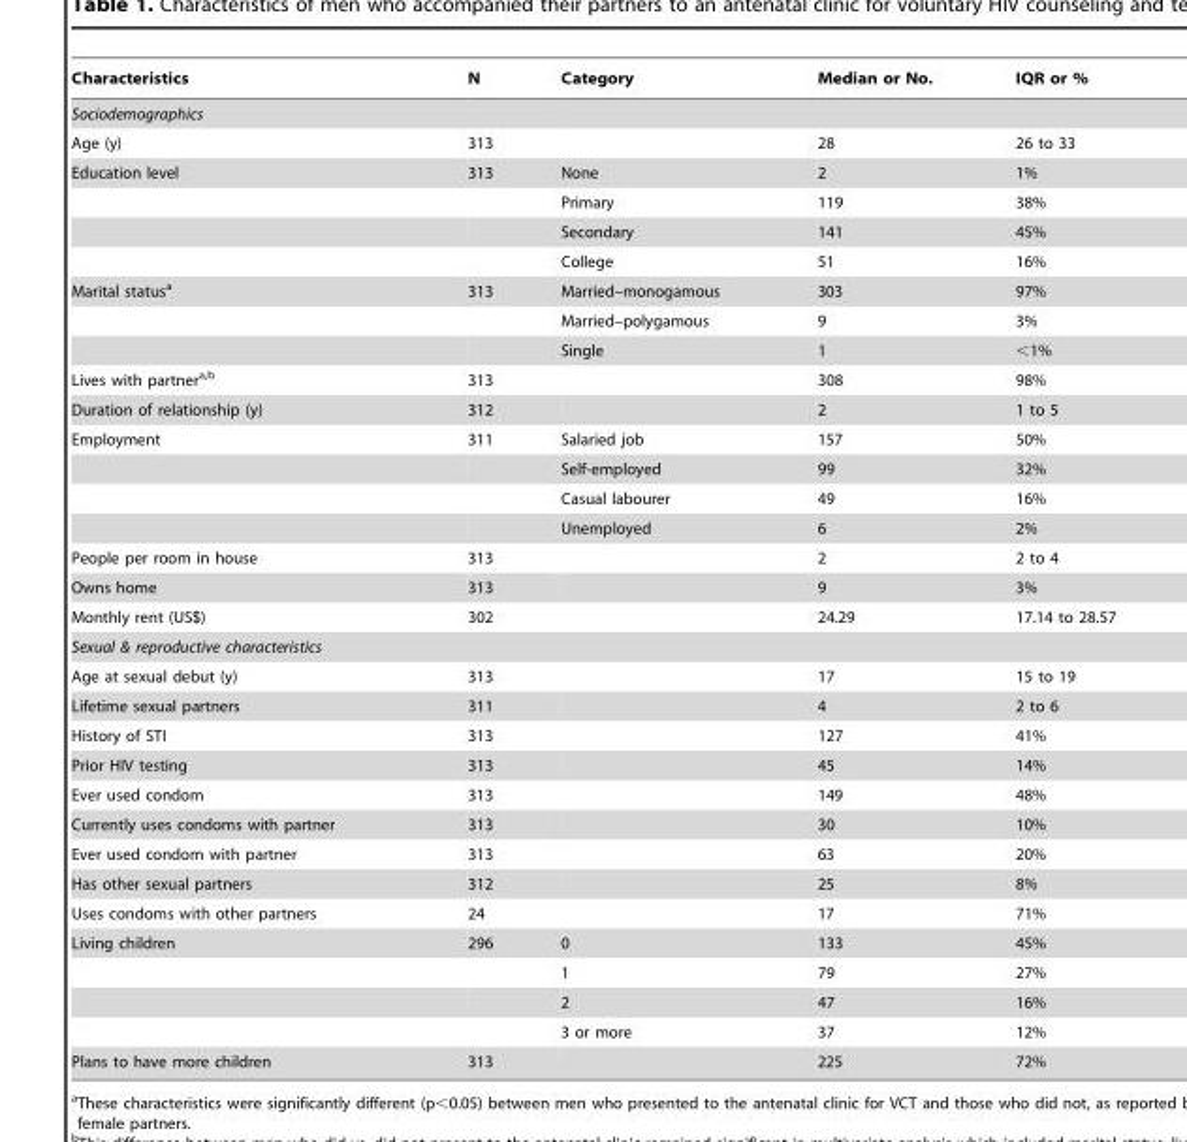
<table><thead><tr><td>Characteristics</td><td>N</td><td>Category</td><td>Median or No.</td><td>IQR or %</td></tr></thead><tbody><tr><td colspan="5">Sociodemographics</td></tr><tr><td>Age (y)</td><td>313</td><td></td><td>28</td><td>26 to 33</td></tr><tr><td rowspan="4">Education level</td><td>313</td><td>None</td><td>2</td><td>1%</td></tr><tr><td></td><td>Primary</td><td>119</td><td>38%</td></tr><tr><td></td><td>Secondary</td><td>141</td><td>45%</td></tr><tr><td></td><td>College</td><td>51</td><td>16%</td></tr><tr><td rowspan="3">Marital status<sup>a</sup></td><td>313</td><td>Married–monogamous</td><td>303</td><td>97%</td></tr><tr><td></td><td>Married–polygamous</td><td>9</td><td>3%</td></tr><tr><td></td><td>Single</td><td>1</td><td>&lt;1%</td></tr><tr><td>Lives with partnera,b</td><td>313</td><td></td><td>308</td><td>98%</td></tr><tr><td>Duration of relationship (y)</td><td>312</td><td></td><td>2</td><td>1 to 5</td></tr><tr><td rowspan="4">Employment</td><td>311</td><td>Salaried job</td><td>157</td><td>50%</td></tr><tr><td></td><td>Self-employed</td><td>99</td><td>32%</td></tr><tr><td></td><td>Casual labourer</td><td>49</td><td>16%</td></tr><tr><td></td><td>Unemployed</td><td>6</td><td>2%</td></tr><tr><td>People per room in house</td><td>313</td><td></td><td>2</td><td>2 to 4</td></tr><tr><td>Owns home</td><td>313</td><td></td><td>9</td><td>3%</td></tr><tr><td>Monthly rent (US$)</td><td>302</td><td></td><td>24.29</td><td>17.14 to 28.57</td></tr><tr><td colspan="5">Sexual &amp; reproductive characteristics</td></tr><tr><td>Age at sexual debut (y)</td><td>313</td><td></td><td>17</td><td>15 to 19</td></tr><tr><td>Lifetime sexual partners</td><td>311</td><td></td><td>4</td><td>2 to 6</td></tr><tr><td>History of STI</td><td>313</td><td></td><td>127</td><td>41%</td></tr><tr><td>Prior HIV testing</td><td>313</td><td></td><td>45</td><td>14%</td></tr><tr><td>Ever used condom</td><td>313</td><td></td><td>149</td><td>48%</td></tr><tr><td>Currently uses condoms with partner</td><td>313</td><td></td><td>30</td><td>10%</td></tr><tr><td>Ever used condom with partner</td><td>313</td><td></td><td>63</td><td>20%</td></tr><tr><td>Has other sexual partners</td><td>312</td><td></td><td>25</td><td>8%</td></tr><tr><td>Uses condoms with other partners</td><td>24</td><td></td><td>17</td><td>71%</td></tr><tr><td rowspan="4">Living children</td><td>296</td><td>0</td><td>133</td><td>45%</td></tr><tr><td></td><td>1</td><td>79</td><td>27%</td></tr><tr><td></td><td>2</td><td>47</td><td>16%</td></tr><tr><td></td><td>3 or more</td><td>37</td><td>12%</td></tr><tr><td>Plans to have more children</td><td>313</td><td></td><td>225</td><td>72%</td></tr></tbody></table>